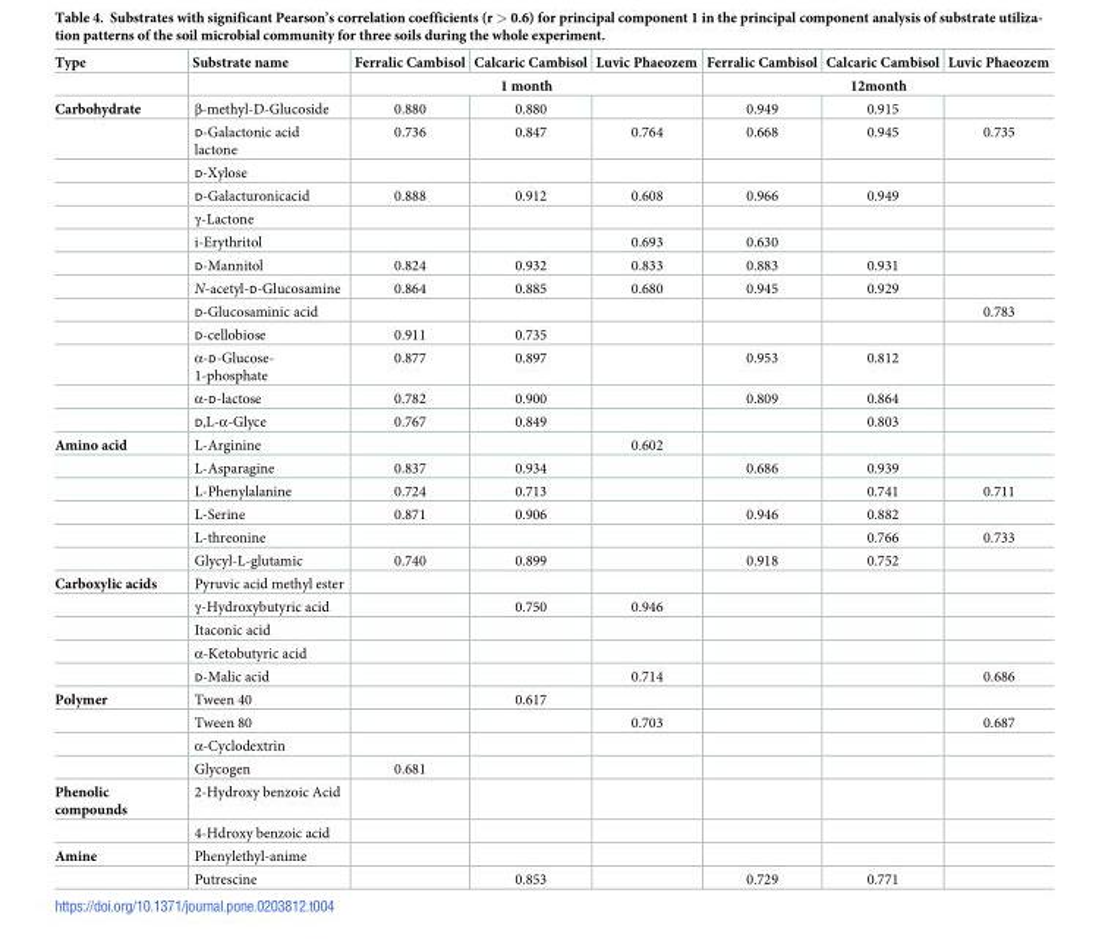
<table><thead><tr><td rowspan="2">Type</td><td rowspan="2">Substrate name</td><td>Ferralic Cambisol</td><td>Calcaric Cambisol</td><td>Luvic Phaeozem</td><td>Ferralic Cambisol</td><td>Calcaric Cambisol</td><td>Luvic Phaeozem</td></tr><tr><td colspan="3">1 month</td><td colspan="3">12month</td></tr></thead><tbody><tr><td rowspan="13">Carbohydrate</td><td>β-methyl-D-Glucoside</td><td>0.880</td><td>0.880</td><td></td><td>0.949</td><td>0.915</td><td></td></tr><tr><td>ᴅ-Galactonic acid lactone</td><td>0.736</td><td>0.847</td><td>0.764</td><td>0.668</td><td>0.945</td><td>0.735</td></tr><tr><td>ᴅ-Xylose</td><td></td><td></td><td></td><td></td><td></td><td></td></tr><tr><td>ᴅ-Galacturonicacid</td><td>0.888</td><td>0.912</td><td>0.608</td><td>0.966</td><td>0.949</td><td></td></tr><tr><td>γ-Lactone</td><td></td><td></td><td></td><td></td><td></td><td></td></tr><tr><td>i-Erythritol</td><td></td><td></td><td>0.693</td><td>0.630</td><td></td><td></td></tr><tr><td>ᴅ-Mannitol</td><td>0.824</td><td>0.932</td><td>0.833</td><td>0.883</td><td>0.931</td><td></td></tr><tr><td>N-acetyl-ᴅ-Glucosamine</td><td>0.864</td><td>0.885</td><td>0.680</td><td>0.945</td><td>0.929</td><td></td></tr><tr><td>ᴅ-Glucosaminic acid</td><td></td><td></td><td></td><td></td><td></td><td>0.783</td></tr><tr><td>ᴅ-cellobiose</td><td>0.911</td><td>0.735</td><td></td><td></td><td></td><td></td></tr><tr><td>α-ᴅ-Glucose- 1-phosphate</td><td>0.877</td><td>0.897</td><td></td><td>0.953</td><td>0.812</td><td></td></tr><tr><td>α-ᴅ-lactose</td><td>0.782</td><td>0.900</td><td></td><td>0.809</td><td>0.864</td><td></td></tr><tr><td>ᴅ,L-α-Glyce</td><td>0.767</td><td>0.849</td><td></td><td></td><td>0.803</td><td></td></tr><tr><td rowspan="6">Amino acid</td><td>L-Arginine</td><td></td><td></td><td>0.602</td><td></td><td></td><td></td></tr><tr><td>L-Asparagine</td><td>0.837</td><td>0.934</td><td></td><td>0.686</td><td>0.939</td><td></td></tr><tr><td>L-Phenylalanine</td><td>0.724</td><td>0.713</td><td></td><td></td><td>0.741</td><td>0.711</td></tr><tr><td>L-Serine</td><td>0.871</td><td>0.906</td><td></td><td>0.946</td><td>0.882</td><td></td></tr><tr><td>L-threonine</td><td></td><td></td><td></td><td></td><td>0.766</td><td>0.733</td></tr><tr><td>Glycyl-L-glutamic</td><td>0.740</td><td>0.899</td><td></td><td>0.918</td><td>0.752</td><td></td></tr><tr><td rowspan="5">Carboxylic acids</td><td>Pyruvic acid methyl ester</td><td></td><td></td><td></td><td></td><td></td><td></td></tr><tr><td>γ-Hydroxybutyric acid</td><td></td><td>0.750</td><td>0.946</td><td></td><td></td><td></td></tr><tr><td>Itaconic acid</td><td></td><td></td><td></td><td></td><td></td><td></td></tr><tr><td>α-Ketobutyric acid</td><td></td><td></td><td></td><td></td><td></td><td></td></tr><tr><td>ᴅ-Malic acid</td><td></td><td></td><td>0.714</td><td></td><td></td><td>0.686</td></tr><tr><td rowspan="4">Polymer</td><td>Tween 40</td><td></td><td>0.617</td><td></td><td></td><td></td><td></td></tr><tr><td>Tween 80</td><td></td><td></td><td>0.703</td><td></td><td></td><td>0.687</td></tr><tr><td>α-Cyclodextrin</td><td></td><td></td><td></td><td></td><td></td><td></td></tr><tr><td>Glycogen</td><td>0.681</td><td></td><td></td><td></td><td></td><td></td></tr><tr><td rowspan="2">Phenolic compounds</td><td>2-Hydroxy benzoic Acid</td><td></td><td></td><td></td><td></td><td></td><td></td></tr><tr><td>4-Hdroxy benzoic acid</td><td></td><td></td><td></td><td></td><td></td><td></td></tr><tr><td rowspan="2">Amine</td><td>Phenylethyl-anime</td><td></td><td></td><td></td><td></td><td></td><td></td></tr><tr><td>Putrescine</td><td></td><td>0.853</td><td></td><td>0.729</td><td>0.771</td><td></td></tr></tbody></table>